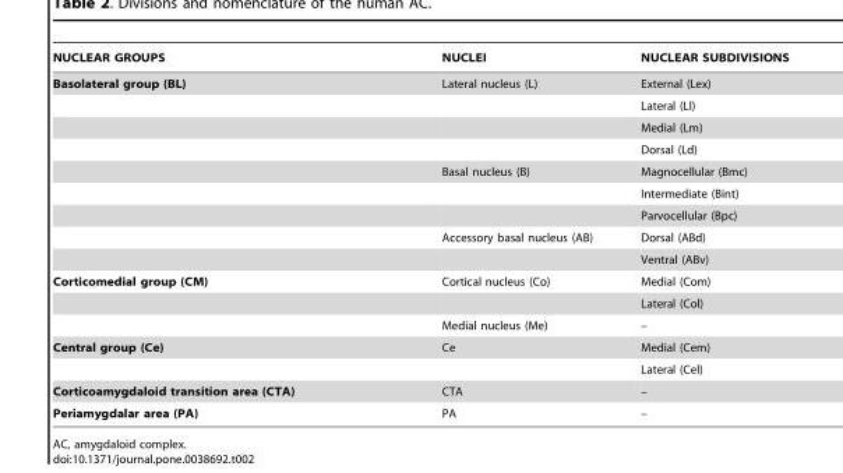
<table><thead><tr><td>NUCLEAR GROUPS</td><td>NUCLEI</td><td>NUCLEAR SUBDIVISIONS</td></tr></thead><tbody><tr><td rowspan="9">Basolateral group (BL)</td><td>Lateral nucleus (L)</td><td>External (Lex)</td></tr><tr><td></td><td>Lateral (Ll)</td></tr><tr><td></td><td>Medial (Lm)</td></tr><tr><td></td><td>Dorsal (Ld)</td></tr><tr><td>Basal nucleus (B)</td><td>Magnocellular (Bmc)</td></tr><tr><td></td><td>Intermediate (Bint)</td></tr><tr><td></td><td>Parvocellular (Bpc)</td></tr><tr><td>Accessory basal nucleus (AB)</td><td>Dorsal (ABd)</td></tr><tr><td></td><td>Ventral (ABv)</td></tr><tr><td rowspan="3">Corticomedial group (CM)</td><td>Cortical nucleus (Co)</td><td>Medial (Com)</td></tr><tr><td></td><td>Lateral (Col)</td></tr><tr><td>Medial nucleus (Me)</td><td>–</td></tr><tr><td rowspan="2">Central group (Ce)</td><td>Ce</td><td>Medial (Cem)</td></tr><tr><td></td><td>Lateral (Cel)</td></tr><tr><td>Corticoamygdaloid transition area (CTA)</td><td>CTA</td><td>–</td></tr><tr><td>Periamygdalar area (PA)</td><td>PA</td><td>–</td></tr></tbody></table>